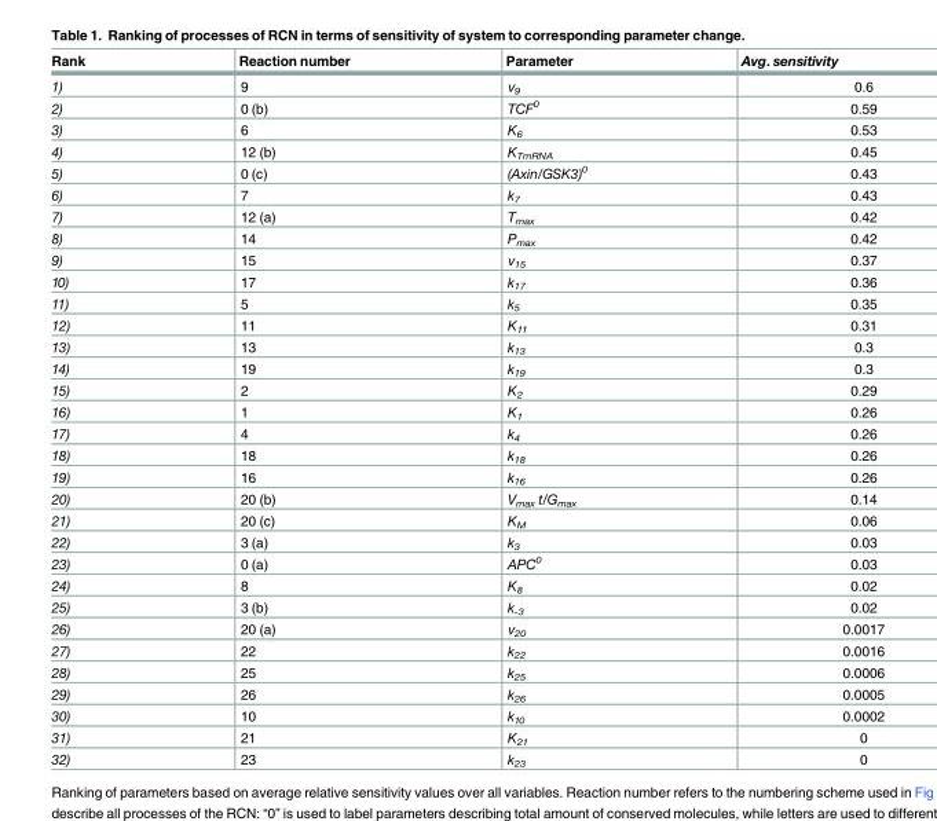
<table><thead><tr><td>Rank</td><td>Reaction number</td><td>Parameter</td><td>Avg. sensitivity</td></tr></thead><tbody><tr><td>1)</td><td>9</td><td>ν<sub>9</sub></td><td>0.6</td></tr><tr><td>2)</td><td>0 (b)</td><td>TCF<sup>0</sup></td><td>0.59</td></tr><tr><td>3)</td><td>6</td><td>K<sub>6</sub></td><td>0.53</td></tr><tr><td>4)</td><td>12 (b)</td><td>K<sub>TmRNA</sub></td><td>0.45</td></tr><tr><td>5)</td><td>0 (c)</td><td>(Axin/GSK3)<sup>0</sup></td><td>0.43</td></tr><tr><td>6)</td><td>7</td><td>k<sub>7</sub></td><td>0.43</td></tr><tr><td>7)</td><td>12 (a)</td><td>T<sub>max</sub></td><td>0.42</td></tr><tr><td>8)</td><td>14</td><td>P<sub>max</sub></td><td>0.42</td></tr><tr><td>9)</td><td>15</td><td>ν<sub>15</sub></td><td>0.37</td></tr><tr><td>10)</td><td>17</td><td>k<sub>17</sub></td><td>0.36</td></tr><tr><td>11)</td><td>5</td><td>k<sub>5</sub></td><td>0.35</td></tr><tr><td>12)</td><td>11</td><td>K<sub>11</sub></td><td>0.31</td></tr><tr><td>13)</td><td>13</td><td>k<sub>13</sub></td><td>0.3</td></tr><tr><td>14)</td><td>19</td><td>k<sub>19</sub></td><td>0.3</td></tr><tr><td>15)</td><td>2</td><td>K<sub>2</sub></td><td>0.29</td></tr><tr><td>16)</td><td>1</td><td>K<sub>1</sub></td><td>0.26</td></tr><tr><td>17)</td><td>4</td><td>k<sub>4</sub></td><td>0.26</td></tr><tr><td>18)</td><td>18</td><td>k<sub>18</sub></td><td>0.26</td></tr><tr><td>19)</td><td>16</td><td>k<sub>16</sub></td><td>0.26</td></tr><tr><td>20)</td><td>20 (b)</td><td>V<sub>max</sub> t/G<sub>max</sub></td><td>0.14</td></tr><tr><td>21)</td><td>20 (c)</td><td>K<sub>M</sub></td><td>0.06</td></tr><tr><td>22)</td><td>3 (a)</td><td>k<sub>3</sub></td><td>0.03</td></tr><tr><td>23)</td><td>0 (a)</td><td>APC<sup>0</sup></td><td>0.03</td></tr><tr><td>24)</td><td>8</td><td>K<sub>8</sub></td><td>0.02</td></tr><tr><td>25)</td><td>3 (b)</td><td>k<sub>-3</sub></td><td>0.02</td></tr><tr><td>26)</td><td>20 (a)</td><td>ν<sub>20</sub></td><td>0.0017</td></tr><tr><td>27)</td><td>22</td><td>k<sub>22</sub></td><td>0.0016</td></tr><tr><td>28)</td><td>25</td><td>k<sub>25</sub></td><td>0.0006</td></tr><tr><td>29)</td><td>26</td><td>k<sub>26</sub></td><td>0.0005</td></tr><tr><td>30)</td><td>10</td><td>k<sub>10</sub></td><td>0.0002</td></tr><tr><td>31)</td><td>21</td><td>K<sub>21</sub></td><td>0</td></tr><tr><td>32)</td><td>23</td><td>k<sub>23</sub></td><td>0</td></tr></tbody></table>